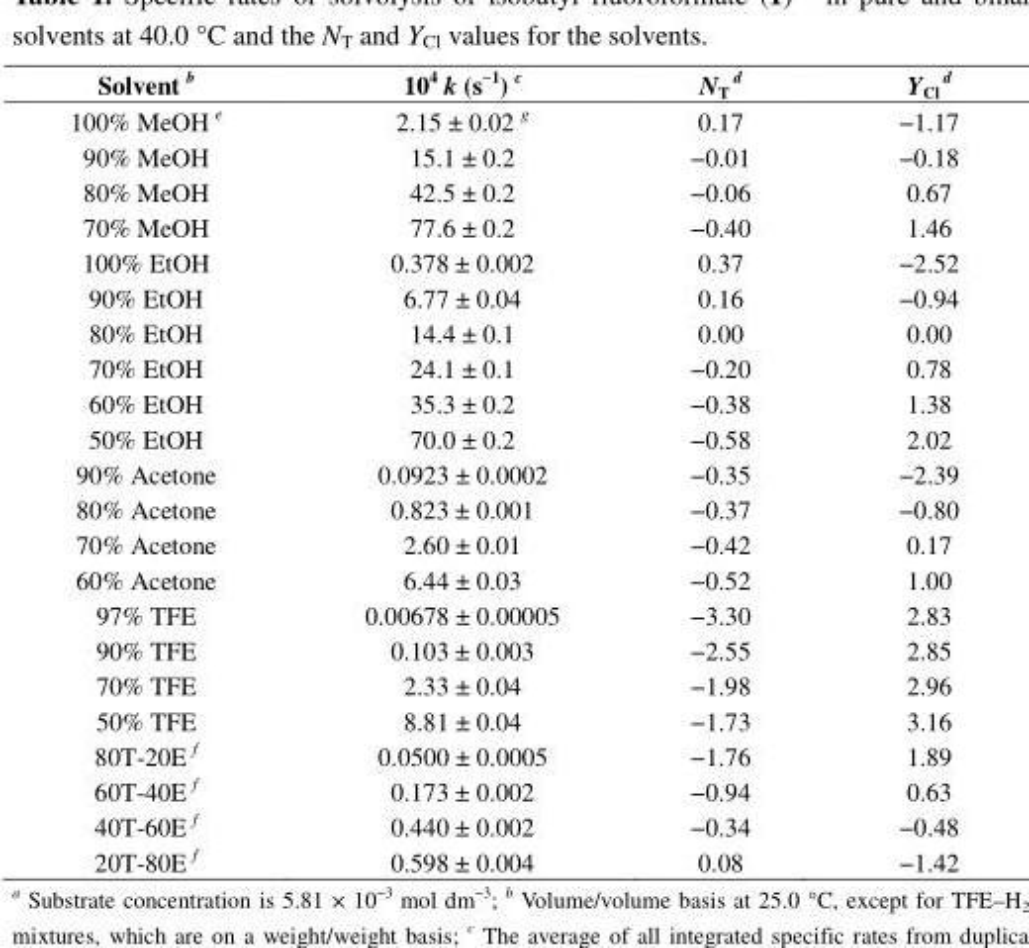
<table><thead><tr><td>Solvent b</td><td>10<sup>4</sup> k (s<sup>−1</sup>) c</td><td>N<sub>T</sub> <sup>d</sup></td><td>Y<sub>Cl</sub> <sup>d</sup></td></tr></thead><tbody><tr><td>100% MeOH e</td><td>2.15 ± 0.02 g</td><td>0.17</td><td>−1.17</td></tr><tr><td>90% MeOH</td><td>15.1 ± 0.2</td><td>−0.01</td><td>−0.18</td></tr><tr><td>80% MeOH</td><td>42.5 ± 0.2</td><td>−0.06</td><td>0.67</td></tr><tr><td>70% MeOH</td><td>77.6 ± 0.2</td><td>−0.40</td><td>1.46</td></tr><tr><td>100% EtOH</td><td>0.378 ± 0.002</td><td>0.37</td><td>−2.52</td></tr><tr><td>90% EtOH</td><td>6.77 ± 0.04</td><td>0.16</td><td>−0.94</td></tr><tr><td>80% EtOH</td><td>14.4 ± 0.1</td><td>0.00</td><td>0.00</td></tr><tr><td>70% EtOH</td><td>24.1 ± 0.1</td><td>−0.20</td><td>0.78</td></tr><tr><td>60% EtOH</td><td>35.3 ± 0.2</td><td>−0.38</td><td>1.38</td></tr><tr><td>50% EtOH</td><td>70.0 ± 0.2</td><td>−0.58</td><td>2.02</td></tr><tr><td>90% Acetone</td><td>0.0923 ± 0.0002</td><td>−0.35</td><td>−2.39</td></tr><tr><td>80% Acetone</td><td>0.823 ± 0.001</td><td>−0.37</td><td>−0.80</td></tr><tr><td>70% Acetone</td><td>2.60 ± 0.01</td><td>−0.42</td><td>0.17</td></tr><tr><td>60% Acetone</td><td>6.44 ± 0.03</td><td>−0.52</td><td>1.00</td></tr><tr><td>97% TFE</td><td>0.00678 ± 0.00005</td><td>−3.30</td><td>2.83</td></tr><tr><td>90% TFE</td><td>0.103 ± 0.003</td><td>−2.55</td><td>2.85</td></tr><tr><td>70% TFE</td><td>2.33 ± 0.04</td><td>−1.98</td><td>2.96</td></tr><tr><td>50% TFE</td><td>8.81 ± 0.04</td><td>−1.73</td><td>3.16</td></tr><tr><td>80T-20E f</td><td>0.0500 ± 0.0005</td><td>−1.76</td><td>1.89</td></tr><tr><td>60T-40E f</td><td>0.173 ± 0.002</td><td>−0.94</td><td>0.63</td></tr><tr><td>40T-60E f</td><td>0.440 ± 0.002</td><td>−0.34</td><td>−0.48</td></tr><tr><td>20T-80E f</td><td>0.598 ± 0.004</td><td>0.08</td><td>−1.42</td></tr></tbody></table>